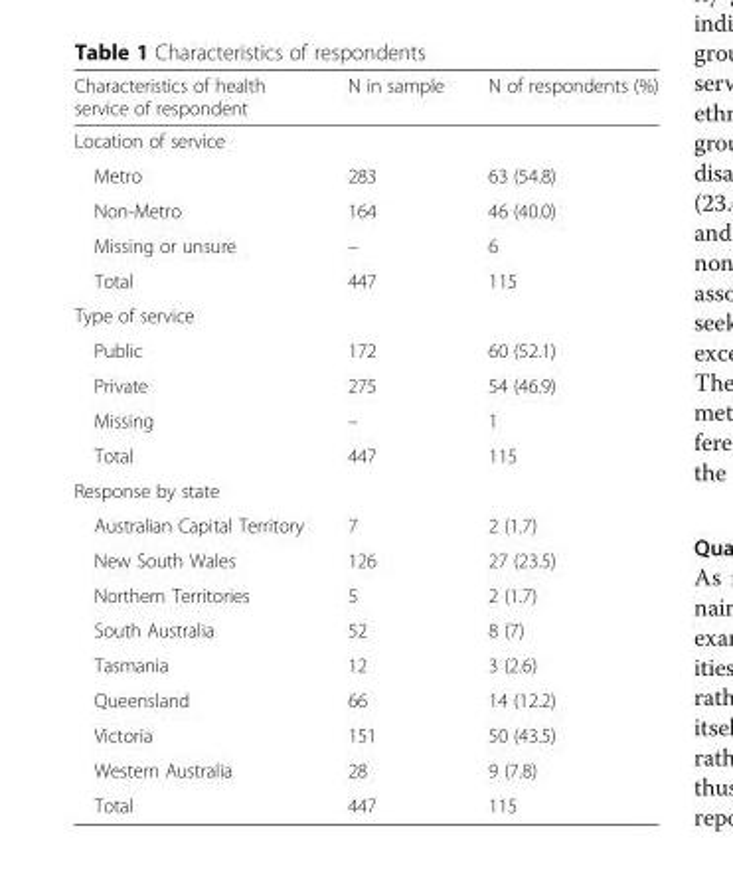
<table><thead><tr><td>Characteristics of health service of respondent</td><td>N in sample</td><td>N of respondents (%)</td></tr></thead><tbody><tr><td colspan="3">Location of service</td></tr><tr><td>Metro</td><td>283</td><td>63 (54.8)</td></tr><tr><td>Non-Metro</td><td>164</td><td>46 (40.0)</td></tr><tr><td>Missing or unsure</td><td>–</td><td>6</td></tr><tr><td>Total</td><td>447</td><td>115</td></tr><tr><td colspan="3">Type of service</td></tr><tr><td>Public</td><td>172</td><td>60 (52.1)</td></tr><tr><td>Private</td><td>275</td><td>54 (46.9)</td></tr><tr><td>Missing</td><td>–</td><td>1</td></tr><tr><td>Total</td><td>447</td><td>115</td></tr><tr><td colspan="3">Response by state</td></tr><tr><td>Australian Capital Territory</td><td>7</td><td>2 (1.7)</td></tr><tr><td>New South Wales</td><td>126</td><td>27 (23.5)</td></tr><tr><td>Northern Territories</td><td>5</td><td>2 (1.7)</td></tr><tr><td>South Australia</td><td>52</td><td>8 (7)</td></tr><tr><td>Tasmania</td><td>12</td><td>3 (2.6)</td></tr><tr><td>Queensland</td><td>66</td><td>14 (12.2)</td></tr><tr><td>Victoria</td><td>151</td><td>50 (43.5)</td></tr><tr><td>Western Australia</td><td>28</td><td>9 (7.8)</td></tr><tr><td>Total</td><td>447</td><td>115</td></tr></tbody></table>